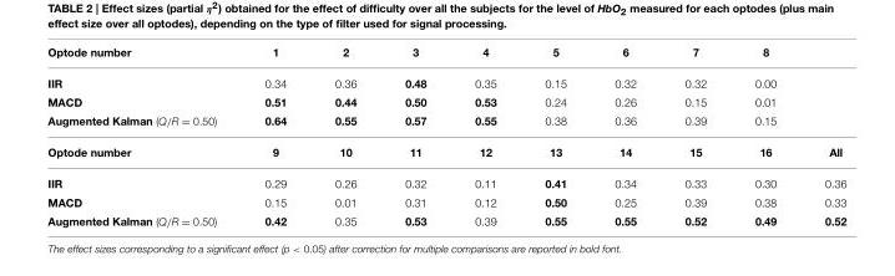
<table><thead><tr><td>Optode number</td><td>1</td><td>2</td><td>3</td><td>4</td><td>5</td><td>6</td><td>7</td><td>8</td><td></td></tr></thead><tbody><tr><td>IIR</td><td>0.34</td><td>0.36</td><td>0.48</td><td>0.35</td><td>0.15</td><td>0.32</td><td>0.32</td><td>0.00</td><td></td></tr><tr><td>MACD</td><td>0.51</td><td>0.44</td><td>0.50</td><td>0.53</td><td>0.24</td><td>0.26</td><td>0.15</td><td>0.01</td><td></td></tr><tr><td>Augmented Kalman (Q/R = 0.50)</td><td>0.64</td><td>0.55</td><td>0.57</td><td>0.55</td><td>0.38</td><td>0.36</td><td>0.39</td><td>0.15</td><td></td></tr><tr><td>Optode number</td><td>9</td><td>10</td><td>11</td><td>12</td><td>13</td><td>14</td><td>15</td><td>16</td><td>All</td></tr><tr><td>IIR</td><td>0.29</td><td>0.26</td><td>0.32</td><td>0.11</td><td>0.41</td><td>0.34</td><td>0.33</td><td>0.30</td><td>0.36</td></tr><tr><td>MACD</td><td>0.15</td><td>0.01</td><td>0.31</td><td>0.12</td><td>0.50</td><td>0.25</td><td>0.39</td><td>0.38</td><td>0.33</td></tr><tr><td>Augmented Kalman (Q/R = 0.50)</td><td>0.42</td><td>0.35</td><td>0.53</td><td>0.39</td><td>0.55</td><td>0.55</td><td>0.52</td><td>0.49</td><td>0.52</td></tr></tbody></table>